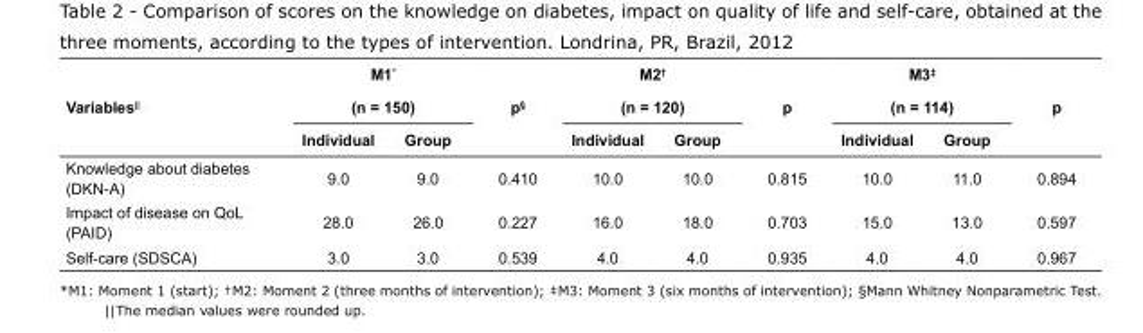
<table><thead><tr><td rowspan="3">Variables<sup>||</sup></td><td rowspan="2" colspan="2">M1* (n = 150)</td><td rowspan="3">p<sup>§</sup></td><td rowspan="2" colspan="2">M2<sup>†</sup> (n = 120)</td><td rowspan="3">p</td><td rowspan="2" colspan="2">M3<sup>‡</sup> (n = 114)</td><td rowspan="3">p</td></tr><tr></tr><tr><td>Individual</td><td>Group</td><td>Individual</td><td>Group</td><td>Individual</td><td>Group</td></tr></thead><tbody><tr><td>Knowledge about diabetes (DKN-A)</td><td>9.0</td><td>9.0</td><td>0.410</td><td>10.0</td><td>10.0</td><td>0.815</td><td>10.0</td><td>11.0</td><td>0.894</td></tr><tr><td>Impact of disease on QoL (PAID)</td><td>28.0</td><td>26.0</td><td>0.227</td><td>16.0</td><td>18.0</td><td>0.703</td><td>15.0</td><td>13.0</td><td>0.597</td></tr><tr><td>Self-care (SDSCA)</td><td>3.0</td><td>3.0</td><td>0.539</td><td>4.0</td><td>4.0</td><td>0.935</td><td>4.0</td><td>4.0</td><td>0.967</td></tr></tbody></table>